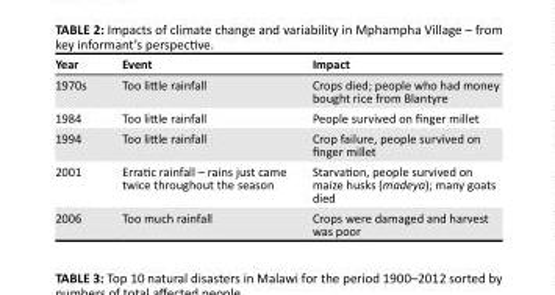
<table><thead><tr><td>Year</td><td>Event</td><td>Impact</td></tr></thead><tbody><tr><td>1970s</td><td>Too little rainfall</td><td>Crops died; people who had money bought rice from Blantyre</td></tr><tr><td>1984</td><td>Too little rainfall</td><td>People survived on finger millet</td></tr><tr><td>1994</td><td>Too little rainfall</td><td>Crop failure, people survived on finger millet</td></tr><tr><td>2001</td><td>Erratic rainfall – rains just came twice throughout the season</td><td>Starvation, people survived on maize husks (madeya); many goats died</td></tr><tr><td>2006</td><td>Too much rainfall</td><td>Crops were damaged and harvest was poor</td></tr></tbody></table>